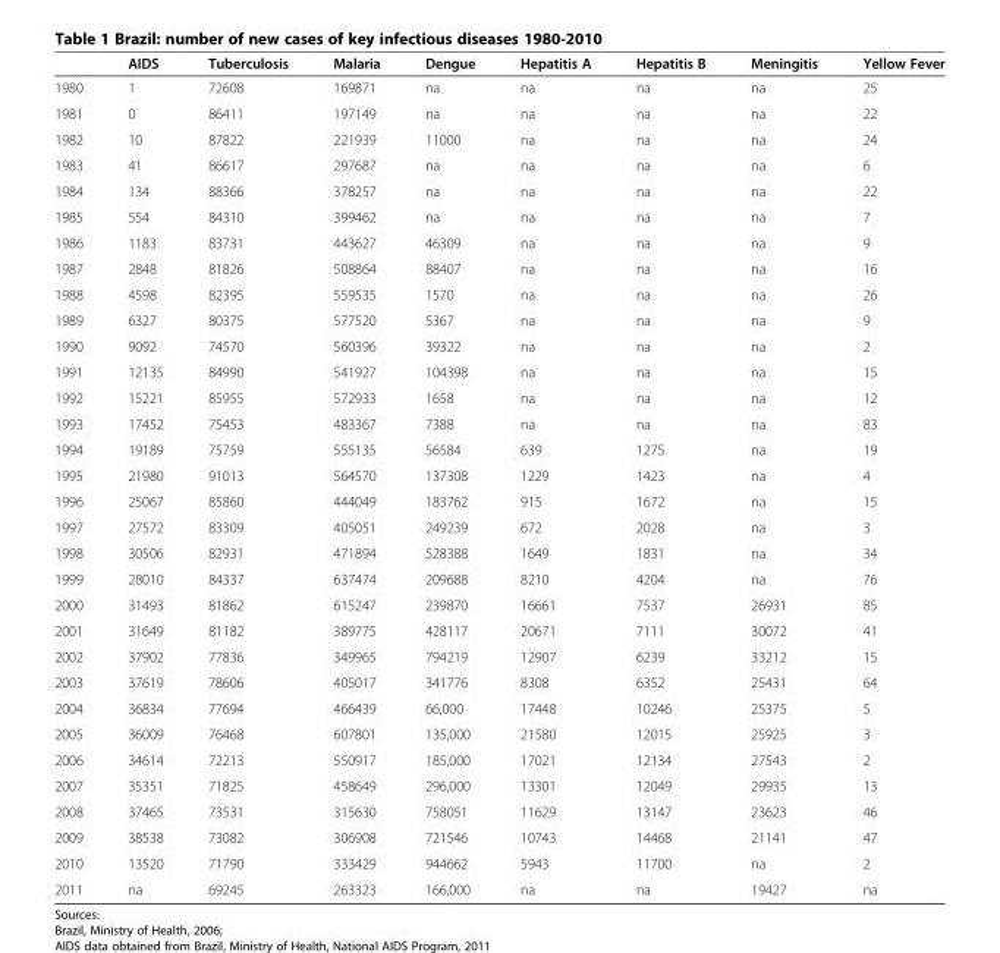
<table><thead><tr><td></td><td>AIDS</td><td>Tuberculosis</td><td>Malaria</td><td>Dengue</td><td>Hepatitis A</td><td>Hepatitis B</td><td>Meningitis</td><td>Yellow Fever</td></tr></thead><tbody><tr><td>1980</td><td>1</td><td>72608</td><td>169871</td><td>na</td><td>na</td><td>na</td><td>na</td><td>25</td></tr><tr><td>1981</td><td>0</td><td>86411</td><td>197149</td><td>na</td><td>na</td><td>na</td><td>na</td><td>22</td></tr><tr><td>1982</td><td>10</td><td>87822</td><td>221939</td><td>11000</td><td>na</td><td>na</td><td>na</td><td>24</td></tr><tr><td>1983</td><td>41</td><td>86617</td><td>297687</td><td>na</td><td>na</td><td>na</td><td>na</td><td>6</td></tr><tr><td>1984</td><td>134</td><td>88366</td><td>378257</td><td>na</td><td>na</td><td>na</td><td>na</td><td>22</td></tr><tr><td>1985</td><td>554</td><td>84310</td><td>399462</td><td>na</td><td>na</td><td>na</td><td>na</td><td>7</td></tr><tr><td>1986</td><td>1183</td><td>83731</td><td>443627</td><td>46309</td><td>na</td><td>na</td><td>na</td><td>9</td></tr><tr><td>1987</td><td>2848</td><td>81826</td><td>508864</td><td>88407</td><td>na</td><td>na</td><td>na</td><td>16</td></tr><tr><td>1988</td><td>4598</td><td>82395</td><td>559535</td><td>1570</td><td>na</td><td>na</td><td>na</td><td>26</td></tr><tr><td>1989</td><td>6327</td><td>80375</td><td>577520</td><td>5367</td><td>na</td><td>na</td><td>na</td><td>9</td></tr><tr><td>1990</td><td>9092</td><td>74570</td><td>560396</td><td>39322</td><td>na</td><td>na</td><td>na</td><td>2</td></tr><tr><td>1991</td><td>12135</td><td>84990</td><td>541927</td><td>104398</td><td>na</td><td>na</td><td>na</td><td>15</td></tr><tr><td>1992</td><td>15221</td><td>85955</td><td>572933</td><td>1658</td><td>na</td><td>na</td><td>na</td><td>12</td></tr><tr><td>1993</td><td>17452</td><td>75453</td><td>483367</td><td>7388</td><td>na</td><td>na</td><td>na</td><td>83</td></tr><tr><td>1994</td><td>19189</td><td>75759</td><td>555135</td><td>56584</td><td>639</td><td>1275</td><td>na</td><td>19</td></tr><tr><td>1995</td><td>21980</td><td>91013</td><td>564570</td><td>137308</td><td>1229</td><td>1423</td><td>na</td><td>4</td></tr><tr><td>1996</td><td>25067</td><td>85860</td><td>444049</td><td>183762</td><td>915</td><td>1672</td><td>na</td><td>15</td></tr><tr><td>1997</td><td>27572</td><td>83309</td><td>405051</td><td>249239</td><td>672</td><td>2028</td><td>na</td><td>3</td></tr><tr><td>1998</td><td>30506</td><td>82931</td><td>471894</td><td>528388</td><td>1649</td><td>1831</td><td>na</td><td>34</td></tr><tr><td>1999</td><td>28010</td><td>84337</td><td>637474</td><td>209688</td><td>8210</td><td>4204</td><td>na</td><td>76</td></tr><tr><td>2000</td><td>31493</td><td>81862</td><td>615247</td><td>239870</td><td>16661</td><td>7537</td><td>26931</td><td>85</td></tr><tr><td>2001</td><td>31649</td><td>81182</td><td>389775</td><td>428117</td><td>20671</td><td>7111</td><td>30072</td><td>41</td></tr><tr><td>2002</td><td>37902</td><td>77836</td><td>349965</td><td>794219</td><td>12907</td><td>6239</td><td>33212</td><td>15</td></tr><tr><td>2003</td><td>37619</td><td>78606</td><td>405017</td><td>341776</td><td>8308</td><td>6352</td><td>25431</td><td>64</td></tr><tr><td>2004</td><td>36834</td><td>77694</td><td>466439</td><td>66,000</td><td>17448</td><td>10246</td><td>25375</td><td>5</td></tr><tr><td>2005</td><td>36009</td><td>76468</td><td>607801</td><td>135,000</td><td>21580</td><td>12015</td><td>25925</td><td>3</td></tr><tr><td>2006</td><td>34614</td><td>72213</td><td>550917</td><td>185,000</td><td>17021</td><td>12134</td><td>27543</td><td>2</td></tr><tr><td>2007</td><td>35351</td><td>71825</td><td>458649</td><td>296,000</td><td>13301</td><td>12049</td><td>29935</td><td>13</td></tr><tr><td>2008</td><td>37465</td><td>73531</td><td>315630</td><td>758051</td><td>11629</td><td>13147</td><td>23623</td><td>46</td></tr><tr><td>2009</td><td>38538</td><td>73082</td><td>306908</td><td>721546</td><td>10743</td><td>14468</td><td>21141</td><td>47</td></tr><tr><td>2010</td><td>13520</td><td>71790</td><td>333429</td><td>944662</td><td>5943</td><td>11700</td><td>na</td><td>2</td></tr><tr><td>2011</td><td>na</td><td>69245</td><td>263323</td><td>166,000</td><td>na</td><td>na</td><td>19427</td><td>na</td></tr></tbody></table>